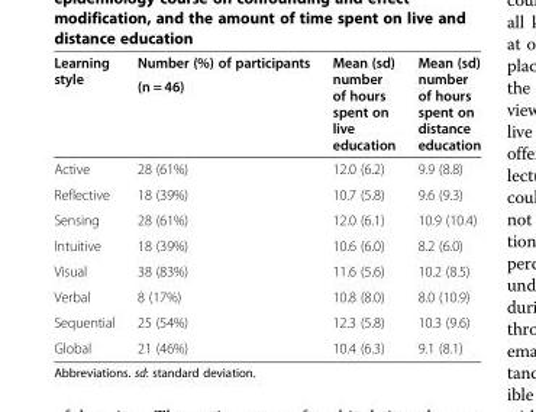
<table><thead><tr><td rowspan="2">Learning style</td><td rowspan="2">Number (%) of participants (n = 46)</td><td rowspan="2">Mean (sd) number of hours spent on live education</td><td rowspan="2">Mean (sd) number of hours spent on distance education</td></tr><tr></tr></thead><tbody><tr><td>Active</td><td>28 (61%)</td><td>12.0 (6.2)</td><td>9.9 (8.8)</td></tr><tr><td>Reflective</td><td>18 (39%)</td><td>10.7 (5.8)</td><td>9.6 (9.3)</td></tr><tr><td>Sensing</td><td>28 (61%)</td><td>12.0 (6.1)</td><td>10.9 (10.4)</td></tr><tr><td>Intuitive</td><td>18 (39%)</td><td>10.6 (6.0)</td><td>8.2 (6.0)</td></tr><tr><td>Visual</td><td>38 (83%)</td><td>11.6 (5.6)</td><td>10.2 (8.5)</td></tr><tr><td>Verbal</td><td>8 (17%)</td><td>10.8 (8.0)</td><td>8.0 (10.9)</td></tr><tr><td>Sequential</td><td>25 (54%)</td><td>12.3 (5.8)</td><td>10.3 (9.6)</td></tr><tr><td>Global</td><td>21 (46%)</td><td>10.4 (6.3)</td><td>9.1 (8.1)</td></tr></tbody></table>